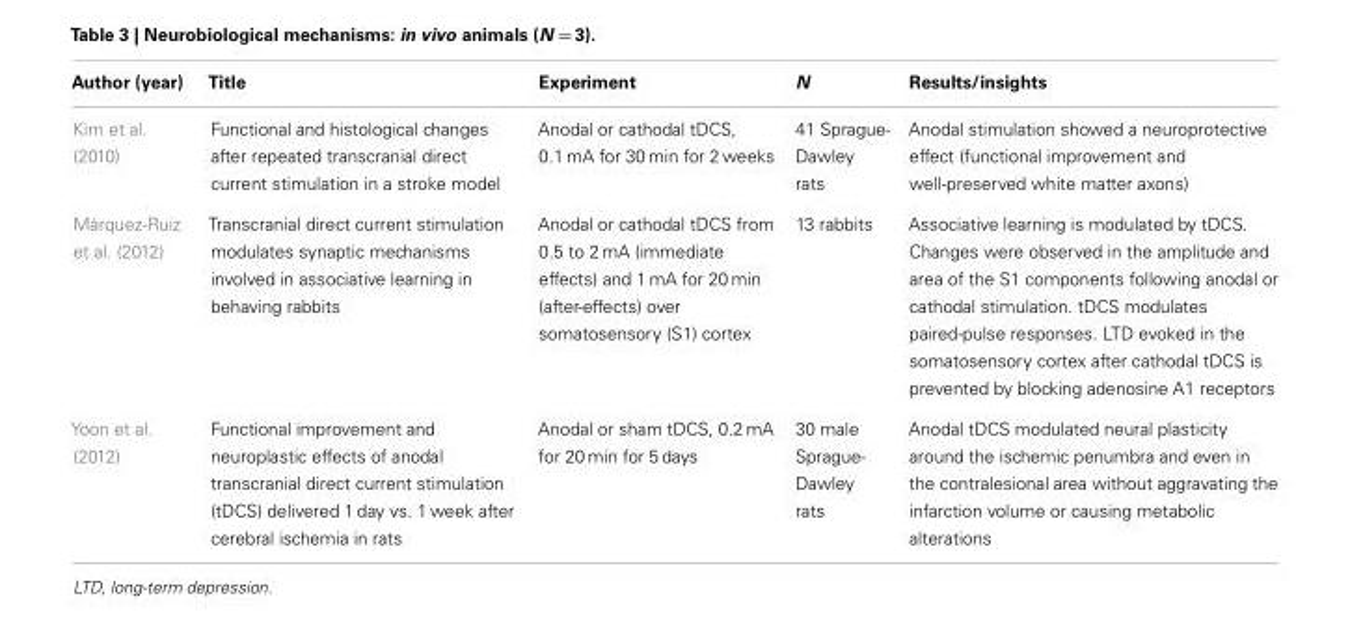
<table><thead><tr><td>Author (year)</td><td>Title</td><td>Experiment</td><td>N</td><td>Results/insights</td></tr></thead><tbody><tr><td>Kim et al. (2010)</td><td>Functional and histological changes after repeated transcranial direct current stimulation in a stroke model</td><td>Anodal or cathodal tDCS, 0.1 mA for 30 min for 2 weeks</td><td>41 Sprague- Dawley rats</td><td>Anodal stimulation showed a neuroprotective effect (functional improvement and well-preserved white matter axons)</td></tr><tr><td>Márquez-Ruiz et al. (2012)</td><td>Transcranial direct current stimulation modulates synaptic mechanisms involved in associative learning in behaving rabbits</td><td>Anodal or cathodal tDCS from 0.5 to 2 mA (immediate effects) and 1 mA for 20 min (after-effects) over somatosensory (S1) cortex</td><td>13 rabbits</td><td>Associative learning is modulated by tDCS. Changes were observed in the amplitude and area of the S1 components following anodal or cathodal stimulation. tDCS modulates paired-pulse responses. LTD evoked in the somatosensory cortex after cathodal tDCS is prevented by blocking adenosine A1 receptors</td></tr><tr><td>Yoon et al. (2012)</td><td>Functional improvement and neuroplastic effects of anodal transcranial direct current stimulation (tDCS) delivered 1 day vs. 1 week after cerebral ischemia in rats</td><td>Anodal or sham tDCS, 0.2 mA for 20 min for 5 days</td><td>30 male Sprague- Dawley rats</td><td>Anodal tDCS modulated neural plasticity around the ischemic penumbra and even in the contralesional area without aggravating the infarction volume or causing metabolic alterations</td></tr></tbody></table>